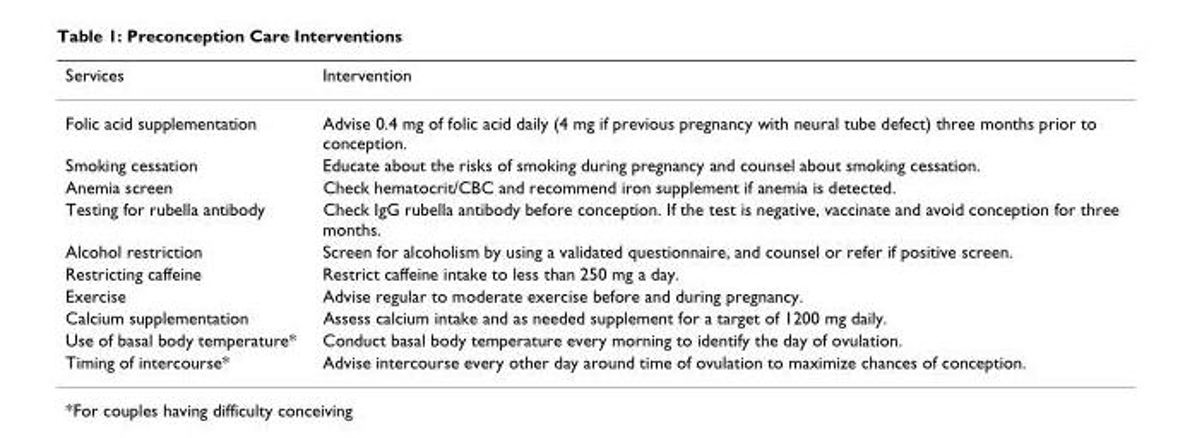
<table><thead><tr><td>Services</td><td>Intervention</td></tr></thead><tbody><tr><td>Folic acid supplementation</td><td>Advise 0.4 mg of folic acid daily (4 mg if previous pregnancy with neural tube defect) three months prior to conception.</td></tr><tr><td>Smoking cessation</td><td>Educate about the risks of smoking during pregnancy and counsel about smoking cessation.</td></tr><tr><td>Anemia screen</td><td>Check hematocrit/CBC and recommend iron supplement if anemia is detected.</td></tr><tr><td>Testing for rubella antibody</td><td>Check IgG rubella antibody before conception. If the test is negative, vaccinate and avoid conception for three months.</td></tr><tr><td>Alcohol restriction</td><td>Screen for alcoholism by using a validated questionnaire, and counsel or refer if positive screen.</td></tr><tr><td>Restricting caffeine</td><td>Restrict caffeine intake to less than 250 mg a day.</td></tr><tr><td>Exercise</td><td>Advise regular to moderate exercise before and during pregnancy.</td></tr><tr><td>Calcium supplementation</td><td>Assess calcium intake and as needed supplement for a target of 1200 mg daily.</td></tr><tr><td>Use of basal body temperature*</td><td>Conduct basal body temperature every morning to identify the day of ovulation.</td></tr><tr><td>Timing of intercourse*</td><td>Advise intercourse every other day around time of ovulation to maximize chances of conception.</td></tr></tbody></table>